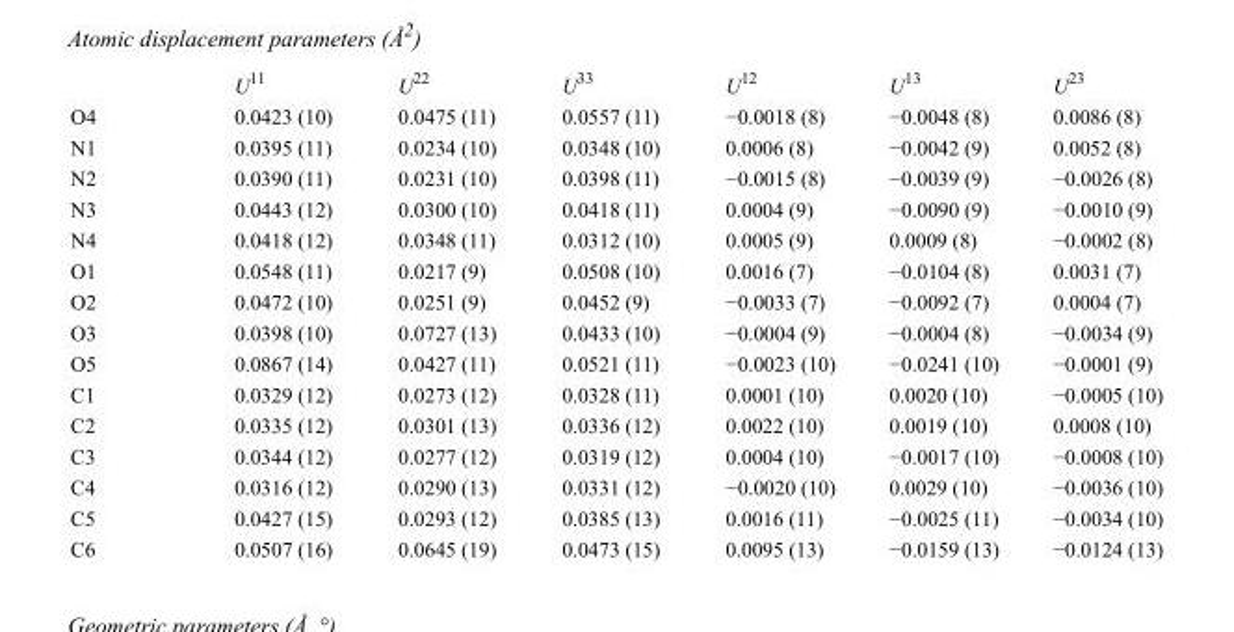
<table><thead><tr><td></td><td>U<sup>11</sup></td><td>U<sup>22</sup></td><td>U<sup>33</sup></td><td>U<sup>12</sup></td><td>U<sup>13</sup></td><td>U<sup>23</sup></td></tr></thead><tbody><tr><td>O4</td><td>0.0423 (10)</td><td>0.0475 (11)</td><td>0.0557 (11)</td><td>−0.0018 (8)</td><td>−0.0048 (8)</td><td>0.0086 (8)</td></tr><tr><td>N1</td><td>0.0395 (11)</td><td>0.0234 (10)</td><td>0.0348 (10)</td><td>0.0006 (8)</td><td>−0.0042 (9)</td><td>0.0052 (8)</td></tr><tr><td>N2</td><td>0.0390 (11)</td><td>0.0231 (10)</td><td>0.0398 (11)</td><td>−0.0015 (8)</td><td>−0.0039 (9)</td><td>−0.0026 (8)</td></tr><tr><td>N3</td><td>0.0443 (12)</td><td>0.0300 (10)</td><td>0.0418 (11)</td><td>0.0004 (9)</td><td>−0.0090 (9)</td><td>−0.0010 (9)</td></tr><tr><td>N4</td><td>0.0418 (12)</td><td>0.0348 (11)</td><td>0.0312 (10)</td><td>0.0005 (9)</td><td>0.0009 (8)</td><td>−0.0002 (8)</td></tr><tr><td>O1</td><td>0.0548 (11)</td><td>0.0217 (9)</td><td>0.0508 (10)</td><td>0.0016 (7)</td><td>−0.0104 (8)</td><td>0.0031 (7)</td></tr><tr><td>O2</td><td>0.0472 (10)</td><td>0.0251 (9)</td><td>0.0452 (9)</td><td>−0.0033 (7)</td><td>−0.0092 (7)</td><td>0.0004 (7)</td></tr><tr><td>O3</td><td>0.0398 (10)</td><td>0.0727 (13)</td><td>0.0433 (10)</td><td>−0.0004 (9)</td><td>−0.0004 (8)</td><td>−0.0034 (9)</td></tr><tr><td>O5</td><td>0.0867 (14)</td><td>0.0427 (11)</td><td>0.0521 (11)</td><td>−0.0023 (10)</td><td>−0.0241 (10)</td><td>−0.0001 (9)</td></tr><tr><td>C1</td><td>0.0329 (12)</td><td>0.0273 (12)</td><td>0.0328 (11)</td><td>0.0001 (10)</td><td>0.0020 (10)</td><td>−0.0005 (10)</td></tr><tr><td>C2</td><td>0.0335 (12)</td><td>0.0301 (13)</td><td>0.0336 (12)</td><td>0.0022 (10)</td><td>0.0019 (10)</td><td>0.0008 (10)</td></tr><tr><td>C3</td><td>0.0344 (12)</td><td>0.0277 (12)</td><td>0.0319 (12)</td><td>0.0004 (10)</td><td>−0.0017 (10)</td><td>−0.0008 (10)</td></tr><tr><td>C4</td><td>0.0316 (12)</td><td>0.0290 (13)</td><td>0.0331 (12)</td><td>−0.0020 (10)</td><td>0.0029 (10)</td><td>−0.0036 (10)</td></tr><tr><td>C5</td><td>0.0427 (15)</td><td>0.0293 (12)</td><td>0.0385 (13)</td><td>0.0016 (11)</td><td>−0.0025 (11)</td><td>−0.0034 (10)</td></tr><tr><td>C6</td><td>0.0507 (16)</td><td>0.0645 (19)</td><td>0.0473 (15)</td><td>0.0095 (13)</td><td>−0.0159 (13)</td><td>−0.0124 (13)</td></tr></tbody></table>